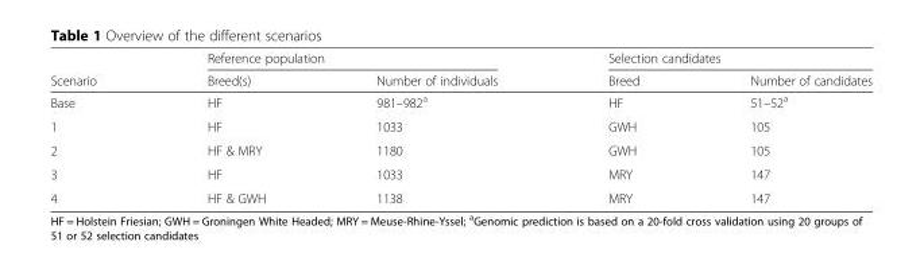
<table><thead><tr><td rowspan="2">Scenario</td><td colspan="2">Reference population</td><td colspan="2">Selection candidates</td></tr><tr><td>Breed(s)</td><td>Number of individuals</td><td>Breed</td><td>Number of candidates</td></tr></thead><tbody><tr><td>Base</td><td>HF</td><td>981–982<sup>a</sup></td><td>HF</td><td>51–52<sup>a</sup></td></tr><tr><td>1</td><td>HF</td><td>1033</td><td>GWH</td><td>105</td></tr><tr><td>2</td><td>HF &amp; MRY</td><td>1180</td><td>GWH</td><td>105</td></tr><tr><td>3</td><td>HF</td><td>1033</td><td>MRY</td><td>147</td></tr><tr><td>4</td><td>HF &amp; GWH</td><td>1138</td><td>MRY</td><td>147</td></tr></tbody></table>